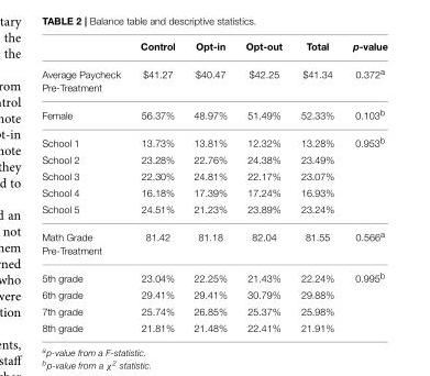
<table><thead><tr><td></td><td>Control</td><td>Opt-in</td><td>Opt-out</td><td>Total</td><td>p-value</td></tr></thead><tbody><tr><td>Average Paycheck Pre-Treatment</td><td>$41.27</td><td>$40.47</td><td>$42.25</td><td>$41.34</td><td>0.372<sup>a</sup></td></tr><tr><td>Female</td><td>56.37%</td><td>48.97%</td><td>51.49%</td><td>52.33%</td><td>0.103<sup>b</sup></td></tr><tr><td>School 1</td><td>13.73%</td><td>13.81%</td><td>12.32%</td><td>13.28%</td><td>0.953<sup>b</sup></td></tr><tr><td>School 2</td><td>23.28%</td><td>22.76%</td><td>24.38%</td><td>23.49%</td><td></td></tr><tr><td>School 3</td><td>22.30%</td><td>24.81%</td><td>22.17%</td><td>23.07%</td><td></td></tr><tr><td>School 4</td><td>16.18%</td><td>17.39%</td><td>17.24%</td><td>16.93%</td><td></td></tr><tr><td>School 5</td><td>24.51%</td><td>21.23%</td><td>23.89%</td><td>23.24%</td><td></td></tr><tr><td>Math Grade Pre-Treatment</td><td>81.42</td><td>81.18</td><td>82.04</td><td>81.55</td><td>0.566<sup>a</sup></td></tr><tr><td>5th grade</td><td>23.04%</td><td>22.25%</td><td>21.43%</td><td>22.24%</td><td>0.995<sup>b</sup></td></tr><tr><td>6th grade</td><td>29.41%</td><td>29.41%</td><td>30.79%</td><td>29.88%</td><td></td></tr><tr><td>7th grade</td><td>25.74%</td><td>26.85%</td><td>25.37%</td><td>25.98%</td><td></td></tr><tr><td>8th grade</td><td>21.81%</td><td>21.48%</td><td>22.41%</td><td>21.91%</td><td></td></tr></tbody></table>